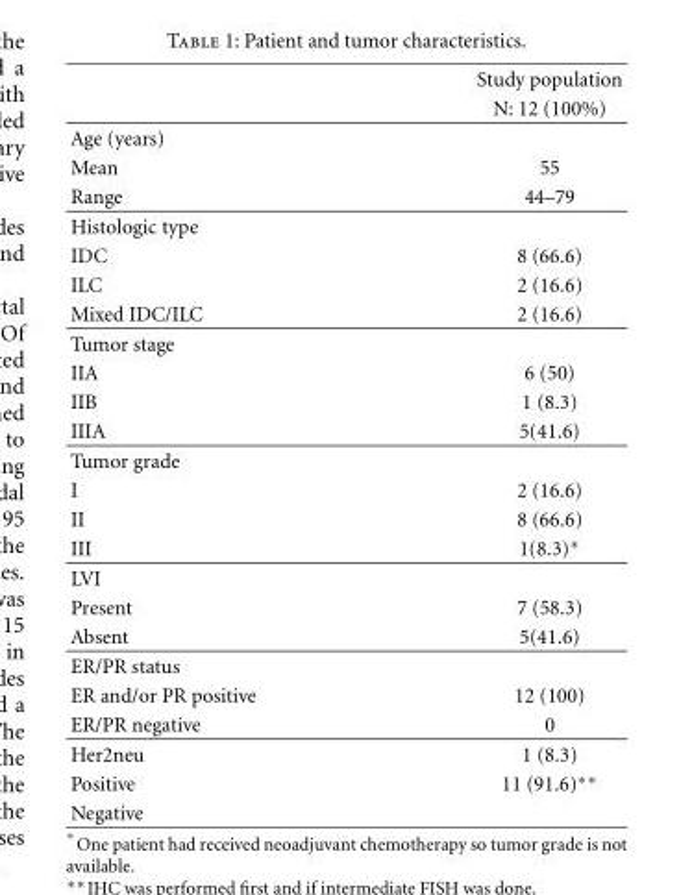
<table><thead><tr><td rowspan="2"></td><td rowspan="2">Study population N: 12 (100%)</td></tr><tr></tr></thead><tbody><tr><td colspan="2">Age (years)</td></tr><tr><td>Mean</td><td>55</td></tr><tr><td>Range</td><td>44–79</td></tr><tr><td colspan="2">Histologic type</td></tr><tr><td>IDC</td><td>8 (66.6)</td></tr><tr><td>ILC</td><td>2 (16.6)</td></tr><tr><td>Mixed IDC/ILC</td><td>2 (16.6)</td></tr><tr><td colspan="2">Tumor stage</td></tr><tr><td>IIA</td><td>6 (50)</td></tr><tr><td>IIB</td><td>1 (8.3)</td></tr><tr><td>IIIA</td><td>5(41.6)</td></tr><tr><td colspan="2">Tumor grade</td></tr><tr><td>I</td><td>2 (16.6)</td></tr><tr><td>II</td><td>8 (66.6)</td></tr><tr><td>III</td><td>1(8.3)∗</td></tr><tr><td colspan="2">LVI</td></tr><tr><td>Present</td><td>7 (58.3)</td></tr><tr><td>Absent</td><td>5(41.6)</td></tr><tr><td colspan="2">ER/PR status</td></tr><tr><td>ER and/or PR positive</td><td>12 (100)</td></tr><tr><td>ER/PR negative</td><td>0</td></tr><tr><td>Her2neu</td><td>1 (8.3)</td></tr><tr><td>Positive</td><td>11 (91.6)∗∗</td></tr><tr><td>Negative</td><td></td></tr></tbody></table>